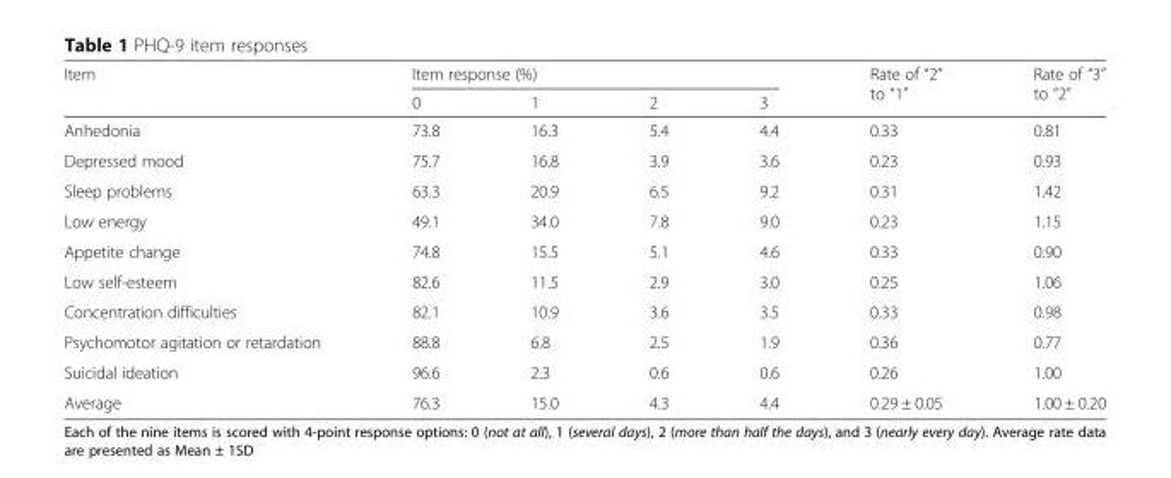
<table><thead><tr><td rowspan="2">Item</td><td colspan="4">Item response (%)</td><td rowspan="2">Rate of “2” to “1”</td><td rowspan="2">Rate of “3” to “2”</td></tr><tr><td>0</td><td>1</td><td>2</td><td>3</td></tr></thead><tbody><tr><td>Anhedonia</td><td>73.8</td><td>16.3</td><td>5.4</td><td>4.4</td><td>0.33</td><td>0.81</td></tr><tr><td>Depressed mood</td><td>75.7</td><td>16.8</td><td>3.9</td><td>3.6</td><td>0.23</td><td>0.93</td></tr><tr><td>Sleep problems</td><td>63.3</td><td>20.9</td><td>6.5</td><td>9.2</td><td>0.31</td><td>1.42</td></tr><tr><td>Low energy</td><td>49.1</td><td>34.0</td><td>7.8</td><td>9.0</td><td>0.23</td><td>1.15</td></tr><tr><td>Appetite change</td><td>74.8</td><td>15.5</td><td>5.1</td><td>4.6</td><td>0.33</td><td>0.90</td></tr><tr><td>Low self-esteem</td><td>82.6</td><td>11.5</td><td>2.9</td><td>3.0</td><td>0.25</td><td>1.06</td></tr><tr><td>Concentration difficulties</td><td>82.1</td><td>10.9</td><td>3.6</td><td>3.5</td><td>0.33</td><td>0.98</td></tr><tr><td>Psychomotor agitation or retardation</td><td>88.8</td><td>6.8</td><td>2.5</td><td>1.9</td><td>0.36</td><td>0.77</td></tr><tr><td>Suicidal ideation</td><td>96.6</td><td>2.3</td><td>0.6</td><td>0.6</td><td>0.26</td><td>1.00</td></tr><tr><td>Average</td><td>76.3</td><td>15.0</td><td>4.3</td><td>4.4</td><td>0.29 ± 0.05</td><td>1.00 ± 0.20</td></tr></tbody></table>